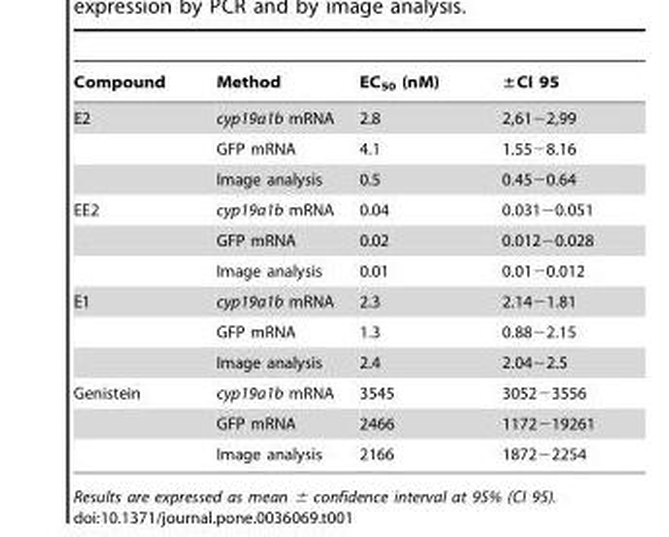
<table><thead><tr><td>Compound</td><td>Method</td><td>EC<sub>50</sub> (nM)</td><td>±CI 95</td></tr></thead><tbody><tr><td rowspan="3">E2</td><td>cyp19a1b mRNA</td><td>2.8</td><td>2,61−2,99</td></tr><tr><td>GFP mRNA</td><td>4.1</td><td>1.55−8.16</td></tr><tr><td>Image analysis</td><td>0.5</td><td>0.45−0.64</td></tr><tr><td rowspan="3">EE2</td><td>cyp19a1b mRNA</td><td>0.04</td><td>0.031−0.051</td></tr><tr><td>GFP mRNA</td><td>0.02</td><td>0.012−0.028</td></tr><tr><td>Image analysis</td><td>0.01</td><td>0.01−0.012</td></tr><tr><td rowspan="3">E1</td><td>cyp19a1b mRNA</td><td>2.3</td><td>2.14−1.81</td></tr><tr><td>GFP mRNA</td><td>1.3</td><td>0.88−2.15</td></tr><tr><td>Image analysis</td><td>2.4</td><td>2.04−2.5</td></tr><tr><td rowspan="3">Genistein</td><td>cyp19a1b mRNA</td><td>3545</td><td>3052−3556</td></tr><tr><td>GFP mRNA</td><td>2466</td><td>1172−19261</td></tr><tr><td>Image analysis</td><td>2166</td><td>1872−2254</td></tr></tbody></table>